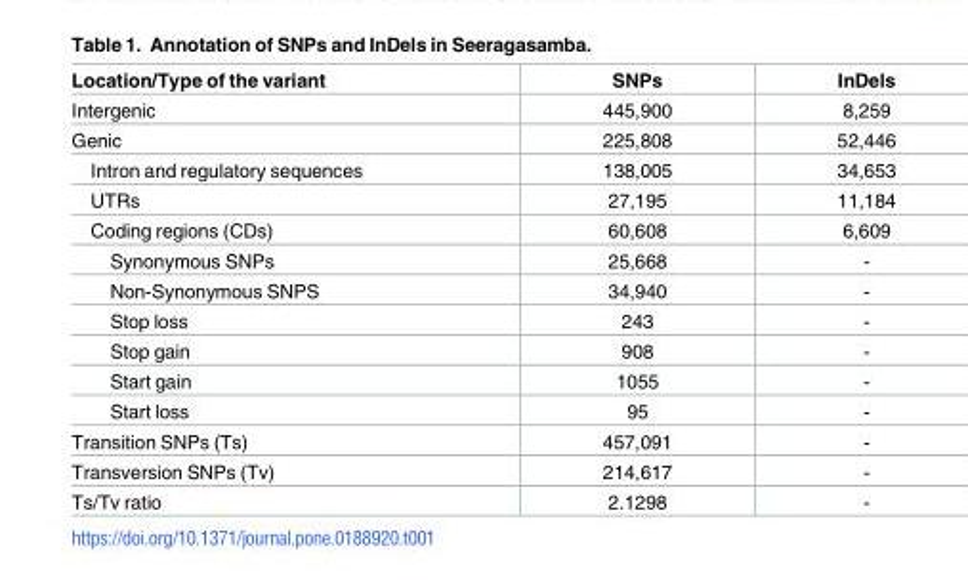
<table><thead><tr><td>Location/Type of the variant</td><td>SNPs</td><td>InDels</td></tr></thead><tbody><tr><td>Intergenic</td><td>445,900</td><td>8,259</td></tr><tr><td>Genic</td><td>225,808</td><td>52,446</td></tr><tr><td>Intron and regulatory sequences</td><td>138,005</td><td>34,653</td></tr><tr><td>UTRs</td><td>27,195</td><td>11,184</td></tr><tr><td>Coding regions (CDs)</td><td>60,608</td><td>6,609</td></tr><tr><td>Synonymous SNPs</td><td>25,668</td><td>-</td></tr><tr><td>Non-Synonymous SNPS</td><td>34,940</td><td>-</td></tr><tr><td>Stop loss</td><td>243</td><td>-</td></tr><tr><td>Stop gain</td><td>908</td><td>-</td></tr><tr><td>Start gain</td><td>1055</td><td>-</td></tr><tr><td>Start loss</td><td>95</td><td>-</td></tr><tr><td>Transition SNPs (Ts)</td><td>457,091</td><td>-</td></tr><tr><td>Transversion SNPs (Tv)</td><td>214,617</td><td>-</td></tr><tr><td>Ts/Tv ratio</td><td>2.1298</td><td>-</td></tr></tbody></table>